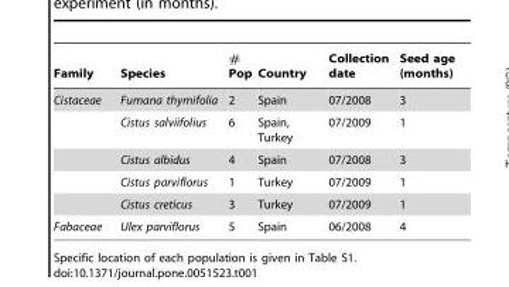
<table><thead><tr><td>Family</td><td>Species</td><td># Pop</td><td>Country</td><td>Collection date</td><td>Seed age (months)</td></tr></thead><tbody><tr><td rowspan="5">Cistaceae</td><td>Fumana thymifolia</td><td>2</td><td>Spain</td><td>07/2008</td><td>3</td></tr><tr><td>Cistus salviifolius</td><td>6</td><td>Spain, Turkey</td><td>07/2009</td><td>1</td></tr><tr><td>Cistus albidus</td><td>4</td><td>Spain</td><td>07/2008</td><td>3</td></tr><tr><td>Cistus parviflorus</td><td>1</td><td>Turkey</td><td>07/2009</td><td>1</td></tr><tr><td>Cistus creticus</td><td>3</td><td>Turkey</td><td>07/2009</td><td>1</td></tr><tr><td>Fabaceae</td><td>Ulex parviflorus</td><td>5</td><td>Spain</td><td>06/2008</td><td>4</td></tr></tbody></table>